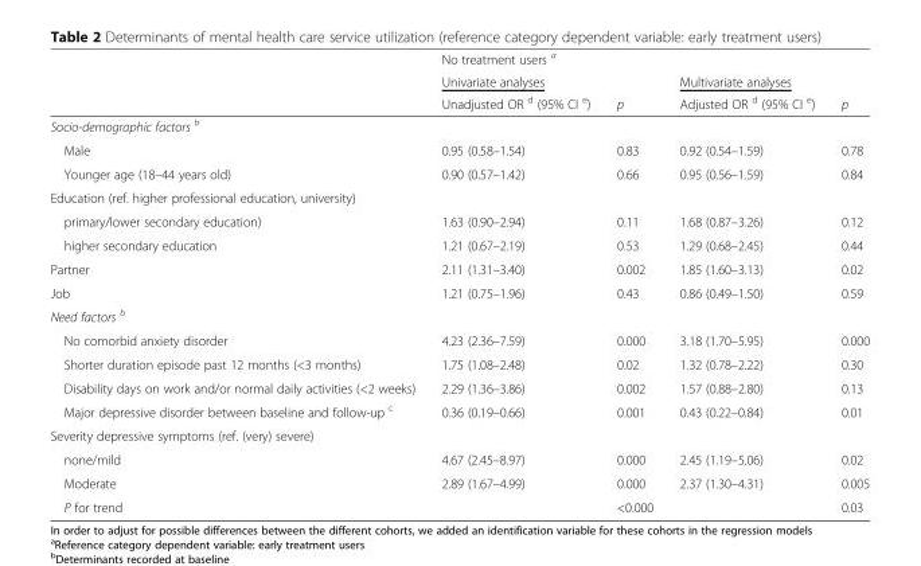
<table><thead><tr><td rowspan="3"></td><td rowspan="3">No treatment users <sup>a</sup> Univariate analyses Unadjusted OR <sup>d</sup> (95% CI <sup>e</sup>)</td><td rowspan="3">p</td><td rowspan="3">Multivariate analyses Adjusted OR <sup>d</sup> (95% CI <sup>e</sup>)</td><td rowspan="3">p</td></tr><tr></tr><tr></tr></thead><tbody><tr><td colspan="5">Socio-demographic factors <sup>b</sup></td></tr><tr><td>Male</td><td>0.95 (0.58–1.54)</td><td>0.83</td><td>0.92 (0.54–1.59)</td><td>0.78</td></tr><tr><td>Younger age (18–44 years old)</td><td>0.90 (0.57–1.42)</td><td>0.66</td><td>0.95 (0.56–1.59)</td><td>0.84</td></tr><tr><td colspan="5">Education (ref. higher professional education, university)</td></tr><tr><td>primary/lower secondary education)</td><td>1.63 (0.90–2.94)</td><td>0.11</td><td>1.68 (0.87–3.26)</td><td>0.12</td></tr><tr><td>higher secondary education</td><td>1.21 (0.67–2.19)</td><td>0.53</td><td>1.29 (0.68–2.45)</td><td>0.44</td></tr><tr><td>Partner</td><td>2.11 (1.31–3.40)</td><td>0.002</td><td>1.85 (1.60–3.13)</td><td>0.02</td></tr><tr><td>Job</td><td>1.21 (0.75–1.96)</td><td>0.43</td><td>0.86 (0.49–1.50)</td><td>0.59</td></tr><tr><td colspan="5">Need factors <sup>b</sup></td></tr><tr><td>No comorbid anxiety disorder</td><td>4.23 (2.36–7.59)</td><td>0.000</td><td>3.18 (1.70–5.95)</td><td>0.000</td></tr><tr><td>Shorter duration episode past 12 months (&lt;3 months)</td><td>1.75 (1.08–2.48)</td><td>0.02</td><td>1.32 (0.78–2.22)</td><td>0.30</td></tr><tr><td>Disability days on work and/or normal daily activities (&lt;2 weeks)</td><td>2.29 (1.36–3.86)</td><td>0.002</td><td>1.57 (0.88–2.80)</td><td>0.13</td></tr><tr><td>Major depressive disorder between baseline and follow-up <sup>c</sup></td><td>0.36 (0.19–0.66)</td><td>0.001</td><td>0.43 (0.22–0.84)</td><td>0.01</td></tr><tr><td colspan="5">Severity depressive symptoms (ref. (very) severe)</td></tr><tr><td>none/mild</td><td>4.67 (2.45–8.97)</td><td>0.000</td><td>2.45 (1.19–5.06)</td><td>0.02</td></tr><tr><td>Moderate</td><td>2.89 (1.67–4.99)</td><td>0.000</td><td>2.37 (1.30–4.31)</td><td>0.005</td></tr><tr><td>P for trend</td><td></td><td>&lt;0.000</td><td></td><td>0.03</td></tr></tbody></table>